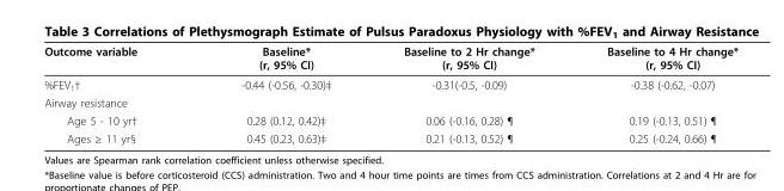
<table><thead><tr><td>Outcome variable</td><td>Baseline* (r, 95% CI)</td><td>Baseline to 2 Hr change* (r, 95% CI)</td><td>Baseline to 4 Hr change* (r, 95% CI)</td></tr></thead><tbody><tr><td>%FEV<sub>1</sub>†</td><td>-0.44 (-0.56, -0.30)‡</td><td>-0.31(-0.5, -0.09)</td><td>-0.38 (-0.62, -0.07)</td></tr><tr><td colspan="4">Airway resistance</td></tr><tr><td>Age 5 - 10 yr†</td><td>0.28 (0.12, 0.42)‡</td><td>0.06 (-0.16, 0.28) ¶</td><td>0.19 (-0.13, 0.51) ¶</td></tr><tr><td>Ages ≥ 11 yr§</td><td>0.45 (0.23, 0.63)‡</td><td>0.21 (-0.13, 0.52) ¶</td><td>0.25 (-0.24, 0.66) ¶</td></tr></tbody></table>